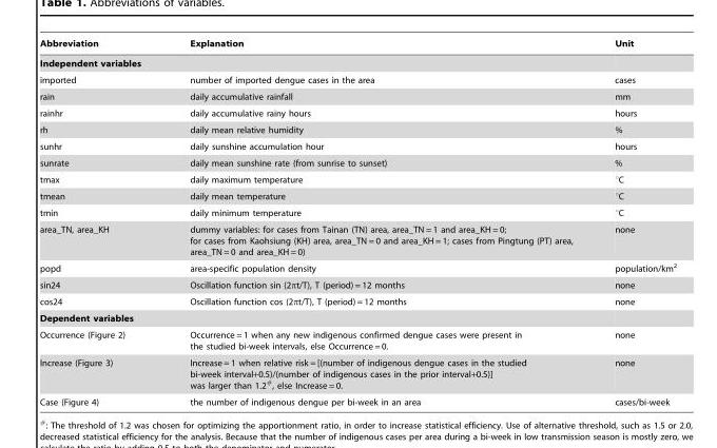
<table><thead><tr><td>Abbreviation</td><td>Explanation</td><td>Unit</td></tr></thead><tbody><tr><td colspan="3">Independent variables</td></tr><tr><td>imported</td><td>number of imported dengue cases in the area</td><td>cases</td></tr><tr><td>rain</td><td>daily accumulative rainfall</td><td>mm</td></tr><tr><td>rainhr</td><td>daily accumulative rainy hours</td><td>hours</td></tr><tr><td>rh</td><td>daily mean relative humidity</td><td>%</td></tr><tr><td>sunhr</td><td>daily sunshine accumulation hour</td><td>hours</td></tr><tr><td>sunrate</td><td>daily mean sunshine rate (from sunrise to sunset)</td><td>%</td></tr><tr><td>tmax</td><td>daily maximum temperature</td><td>°C</td></tr><tr><td>tmean</td><td>daily mean temperature</td><td>°C</td></tr><tr><td>tmin</td><td>daily minimum temperature</td><td>°C</td></tr><tr><td>area_TN, area_KH</td><td>dummy variables: for cases from Tainan (TN) area, area_TN = 1 and area_KH = 0; for cases from Kaohsiung (KH) area, area_TN = 0 and area_KH = 1; cases from Pingtung (PT) area, area_TN = 0 and area_KH = 0)</td><td>none</td></tr><tr><td>popd</td><td>area-specific population density</td><td>population/km<sup>2</sup></td></tr><tr><td>sin24</td><td>Oscillation function sin (2πt/T), T (period) = 12 months</td><td>none</td></tr><tr><td>cos24</td><td>Oscillation function cos (2πt/T), T (period) = 12 months</td><td>none</td></tr><tr><td colspan="3">Dependent variables</td></tr><tr><td>Occurrence (Figure 2)</td><td>Occurrence = 1 when any new indigenous confirmed dengue cases were present in the studied bi-week intervals, else Occurrence = 0.</td><td>none</td></tr><tr><td>Increase (Figure 3)</td><td>Increase = 1 when relative risk = [(number of indigenous dengue cases in the studied bi-week interval+0.5)/(number of indigenous cases in the prior interval+0.5)] was larger than 1.2<sup>#</sup>, else Increase = 0.</td><td>none</td></tr><tr><td>Case (Figure 4)</td><td>the number of indigenous dengue per bi-week in an area</td><td>cases/bi-week</td></tr></tbody></table>